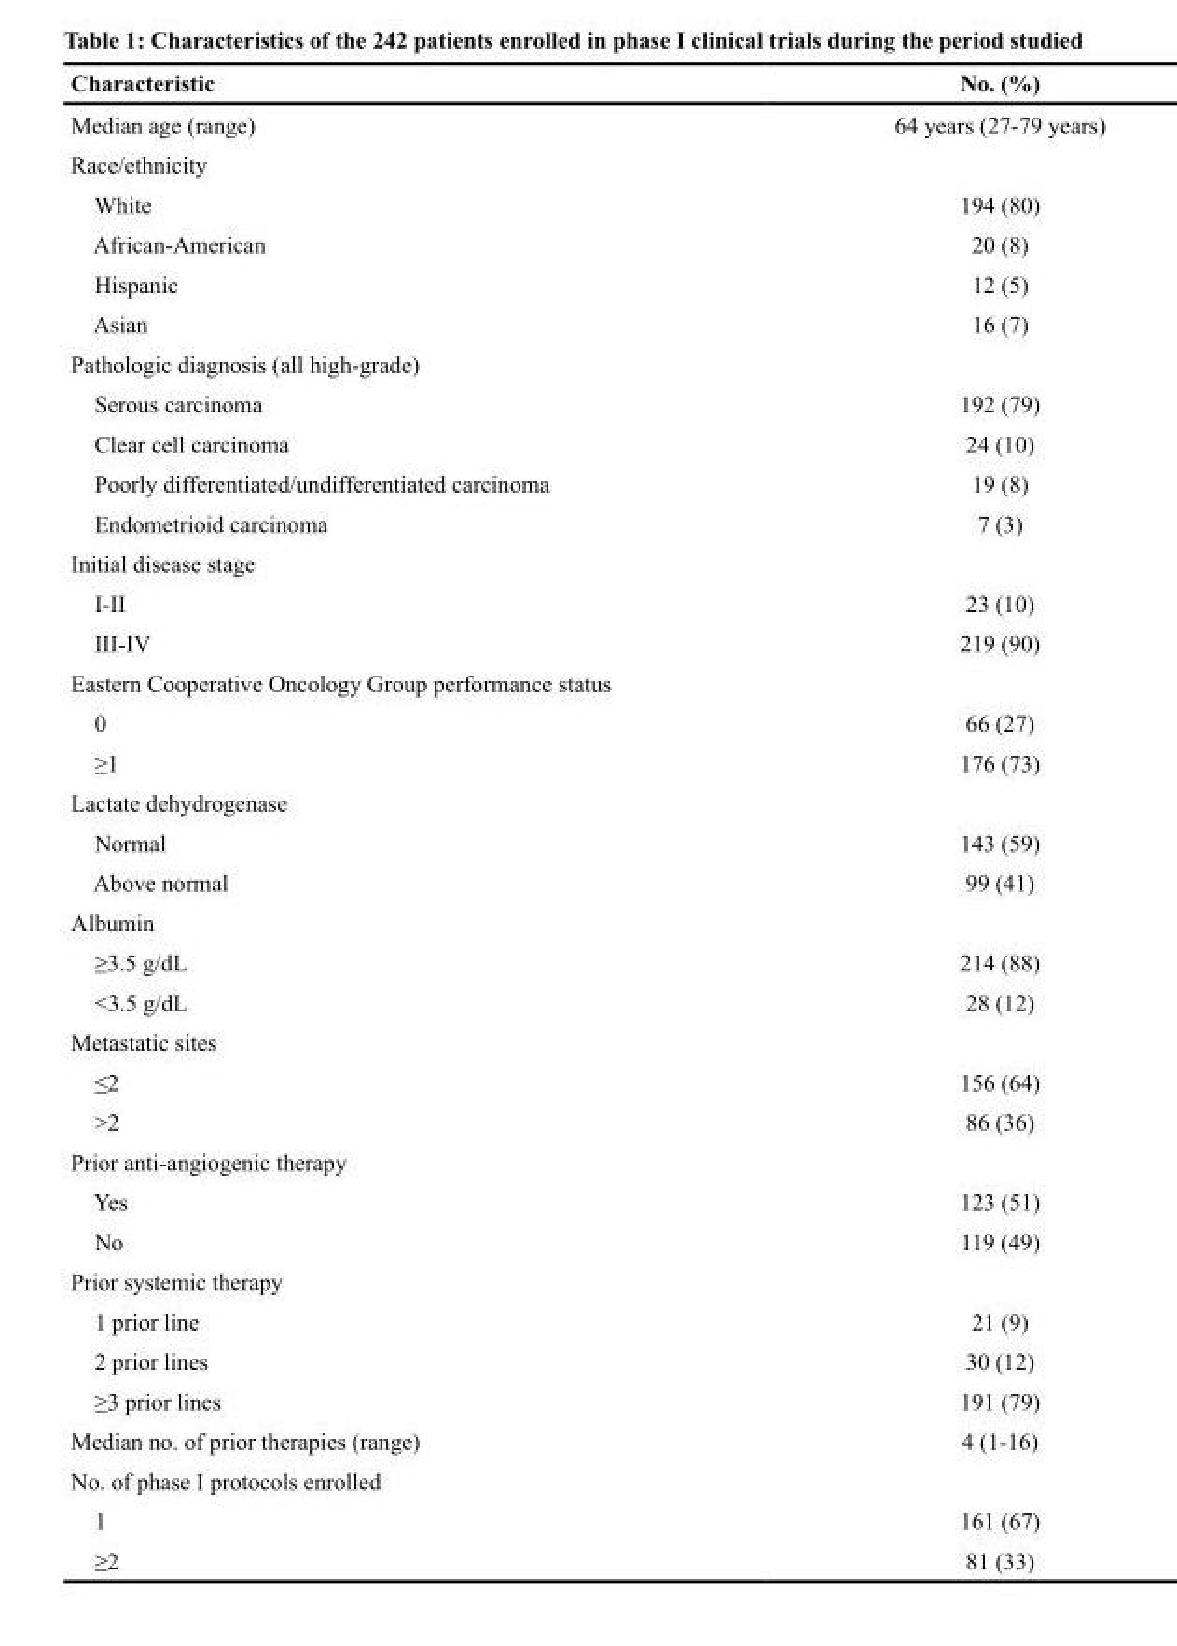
<table><thead><tr><td>Characteristic</td><td>No. (%)</td></tr></thead><tbody><tr><td>Median age (range)</td><td>64 years (27-79 years)</td></tr><tr><td colspan="2">Race/ethnicity</td></tr><tr><td>White</td><td>194 (80)</td></tr><tr><td>African-American</td><td>20 (8)</td></tr><tr><td>Hispanic</td><td>12 (5)</td></tr><tr><td>Asian</td><td>16 (7)</td></tr><tr><td colspan="2">Pathologic diagnosis (all high-grade)</td></tr><tr><td>Serous carcinoma</td><td>192 (79)</td></tr><tr><td>Clear cell carcinoma</td><td>24 (10)</td></tr><tr><td>Poorly differentiated/undifferentiated carcinoma</td><td>19 (8)</td></tr><tr><td>Endometrioid carcinoma</td><td>7 (3)</td></tr><tr><td colspan="2">Initial disease stage</td></tr><tr><td>I-II</td><td>23 (10)</td></tr><tr><td>III-IV</td><td>219 (90)</td></tr><tr><td colspan="2">Eastern Cooperative Oncology Group performance status</td></tr><tr><td>0</td><td>66 (27)</td></tr><tr><td>≥1</td><td>176 (73)</td></tr><tr><td colspan="2">Lactate dehydrogenase</td></tr><tr><td>Normal</td><td>143 (59)</td></tr><tr><td>Above normal</td><td>99 (41)</td></tr><tr><td colspan="2">Albumin</td></tr><tr><td>≥3.5 g/dL</td><td>214 (88)</td></tr><tr><td>&lt;3.5 g/dL</td><td>28 (12)</td></tr><tr><td colspan="2">Metastatic sites</td></tr><tr><td>≤2</td><td>156 (64)</td></tr><tr><td>&gt;2</td><td>86 (36)</td></tr><tr><td colspan="2">Prior anti-angiogenic therapy</td></tr><tr><td>Yes</td><td>123 (51)</td></tr><tr><td>No</td><td>119 (49)</td></tr><tr><td colspan="2">Prior systemic therapy</td></tr><tr><td>1 prior line</td><td>21 (9)</td></tr><tr><td>2 prior lines</td><td>30 (12)</td></tr><tr><td>≥3 prior lines</td><td>191 (79)</td></tr><tr><td>Median no. of prior therapies (range)</td><td>4 (1-16)</td></tr><tr><td colspan="2">No. of phase I protocols enrolled</td></tr><tr><td>1</td><td>161 (67)</td></tr><tr><td>≥2</td><td>81 (33)</td></tr></tbody></table>